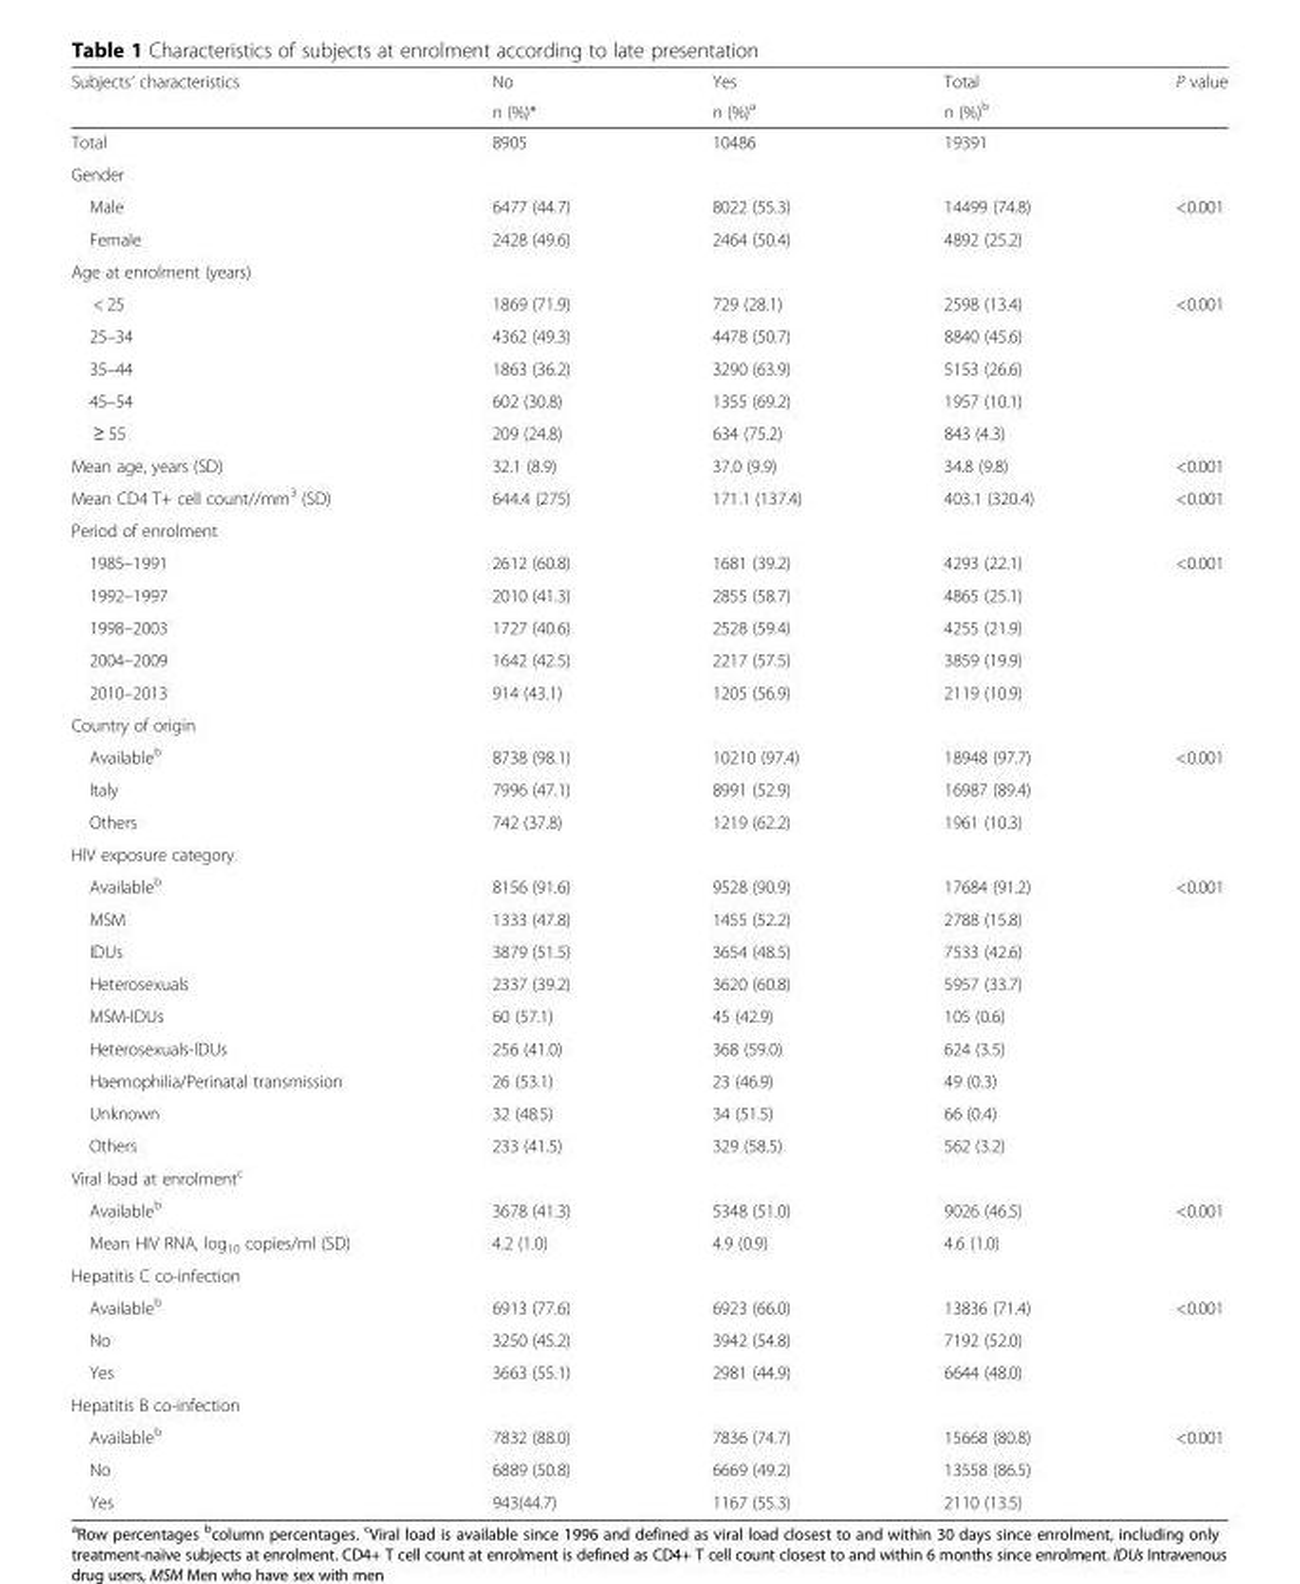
<table><thead><tr><td rowspan="2">Subjects’ characteristics</td><td rowspan="2">No n (%)*</td><td rowspan="2">Yes n (%)a</td><td rowspan="2">Total n (%)b</td><td rowspan="2">P value</td></tr><tr></tr></thead><tbody><tr><td>Total</td><td>8905</td><td>10486</td><td>19391</td><td></td></tr><tr><td colspan="5">Gender</td></tr><tr><td>Male</td><td>6477 (44.7)</td><td>8022 (55.3)</td><td>14499 (74.8)</td><td rowspan="2">&lt;0.001</td></tr><tr><td>Female</td><td>2428 (49.6)</td><td>2464 (50.4)</td><td>4892 (25.2)</td></tr><tr><td colspan="5">Age at enrolment (years)</td></tr><tr><td>&lt; 25</td><td>1869 (71.9)</td><td>729 (28.1)</td><td>2598 (13.4)</td><td rowspan="5">&lt;0.001</td></tr><tr><td>25–34</td><td>4362 (49.3)</td><td>4478 (50.7)</td><td>8840 (45.6)</td></tr><tr><td>35–44</td><td>1863 (36.2)</td><td>3290 (63.9)</td><td>5153 (26.6)</td></tr><tr><td>45–54</td><td>602 (30.8)</td><td>1355 (69.2)</td><td>1957 (10.1)</td></tr><tr><td>≥ 55</td><td>209 (24.8)</td><td>634 (75.2)</td><td>843 (4.3)</td></tr><tr><td>Mean age, years (SD)</td><td>32.1 (8.9)</td><td>37.0 (9.9)</td><td>34.8 (9.8)</td><td>&lt;0.001</td></tr><tr><td>Mean CD4 T+ cell count//mm<sup>3</sup> (SD)</td><td>644.4 (275)</td><td>171.1 (137.4)</td><td>403.1 (320.4)</td><td>&lt;0.001</td></tr><tr><td colspan="5">Period of enrolment</td></tr><tr><td>1985–1991</td><td>2612 (60.8)</td><td>1681 (39.2)</td><td>4293 (22.1)</td><td rowspan="5">&lt;0.001</td></tr><tr><td>1992–1997</td><td>2010 (41.3)</td><td>2855 (58.7)</td><td>4865 (25.1)</td></tr><tr><td>1998–2003</td><td>1727 (40.6)</td><td>2528 (59.4)</td><td>4255 (21.9)</td></tr><tr><td>2004–2009</td><td>1642 (42.5)</td><td>2217 (57.5)</td><td>3859 (19.9)</td></tr><tr><td>2010–2013</td><td>914 (43.1)</td><td>1205 (56.9)</td><td>2119 (10.9)</td></tr><tr><td colspan="5">Country of origin</td></tr><tr><td>Available<sup>b</sup></td><td>8738 (98.1)</td><td>10210 (97.4)</td><td>18948 (97.7)</td><td rowspan="3">&lt;0.001</td></tr><tr><td>Italy</td><td>7996 (47.1)</td><td>8991 (52.9)</td><td>16987 (89.4)</td></tr><tr><td>Others</td><td>742 (37.8)</td><td>1219 (62.2)</td><td>1961 (10.3)</td></tr><tr><td colspan="5">HIV exposure category</td></tr><tr><td>Available<sup>b</sup></td><td>8156 (91.6)</td><td>9528 (90.9)</td><td>17684 (91.2)</td><td rowspan="9">&lt;0.001</td></tr><tr><td>MSM</td><td>1333 (47.8)</td><td>1455 (52.2)</td><td>2788 (15.8)</td></tr><tr><td>IDUs</td><td>3879 (51.5)</td><td>3654 (48.5)</td><td>7533 (42.6)</td></tr><tr><td>Heterosexuals</td><td>2337 (39.2)</td><td>3620 (60.8)</td><td>5957 (33.7)</td></tr><tr><td>MSM-IDUs</td><td>60 (57.1)</td><td>45 (42.9)</td><td>105 (0.6)</td></tr><tr><td>Heterosexuals-IDUs</td><td>256 (41.0)</td><td>368 (59.0)</td><td>624 (3.5)</td></tr><tr><td>Haemophilia/Perinatal transmission</td><td>26 (53.1)</td><td>23 (46.9)</td><td>49 (0.3)</td></tr><tr><td>Unknown</td><td>32 (48.5)</td><td>34 (51.5)</td><td>66 (0.4)</td></tr><tr><td>Others</td><td>233 (41.5)</td><td>329 (58.5)</td><td>562 (3.2)</td></tr><tr><td colspan="5">Viral load at enrolment<sup>c</sup></td></tr><tr><td>Available<sup>b</sup></td><td>3678 (41.3)</td><td>5348 (51.0)</td><td>9026 (46.5)</td><td rowspan="2">&lt;0.001</td></tr><tr><td>Mean HIV RNA, log<sub>10</sub> copies/ml (SD)</td><td>4.2 (1.0)</td><td>4.9 (0.9)</td><td>4.6 (1.0)</td></tr><tr><td colspan="5">Hepatitis C co-infection</td></tr><tr><td>Available<sup>b</sup></td><td>6913 (77.6)</td><td>6923 (66.0)</td><td>13836 (71.4)</td><td rowspan="3">&lt;0.001</td></tr><tr><td>No</td><td>3250 (45.2)</td><td>3942 (54.8)</td><td>7192 (52.0)</td></tr><tr><td>Yes</td><td>3663 (55.1)</td><td>2981 (44.9)</td><td>6644 (48.0)</td></tr><tr><td colspan="5">Hepatitis B co-infection</td></tr><tr><td>Available<sup>b</sup></td><td>7832 (88.0)</td><td>7836 (74.7)</td><td>15668 (80.8)</td><td rowspan="3">&lt;0.001</td></tr><tr><td>No</td><td>6889 (50.8)</td><td>6669 (49.2)</td><td>13558 (86.5)</td></tr><tr><td>Yes</td><td>943(44.7)</td><td>1167 (55.3)</td><td>2110 (13.5)</td></tr></tbody></table>